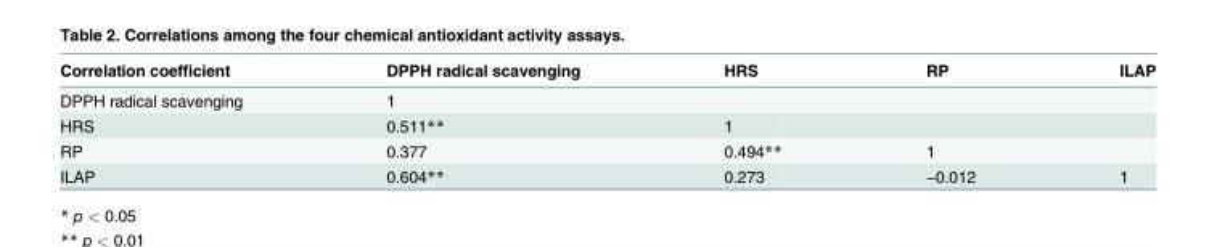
<table><thead><tr><td>Correlation coefficient</td><td>DPPH radical scavenging</td><td>HRS</td><td>RP</td><td>ILAP</td></tr></thead><tbody><tr><td>DPPH radical scavenging</td><td>1</td><td></td><td></td><td></td></tr><tr><td>HRS</td><td>0.511**</td><td>1</td><td></td><td></td></tr><tr><td>RP</td><td>0.377</td><td>0.494**</td><td>1</td><td></td></tr><tr><td>ILAP</td><td>0.604**</td><td>0.273</td><td>−0.012</td><td>1</td></tr></tbody></table>